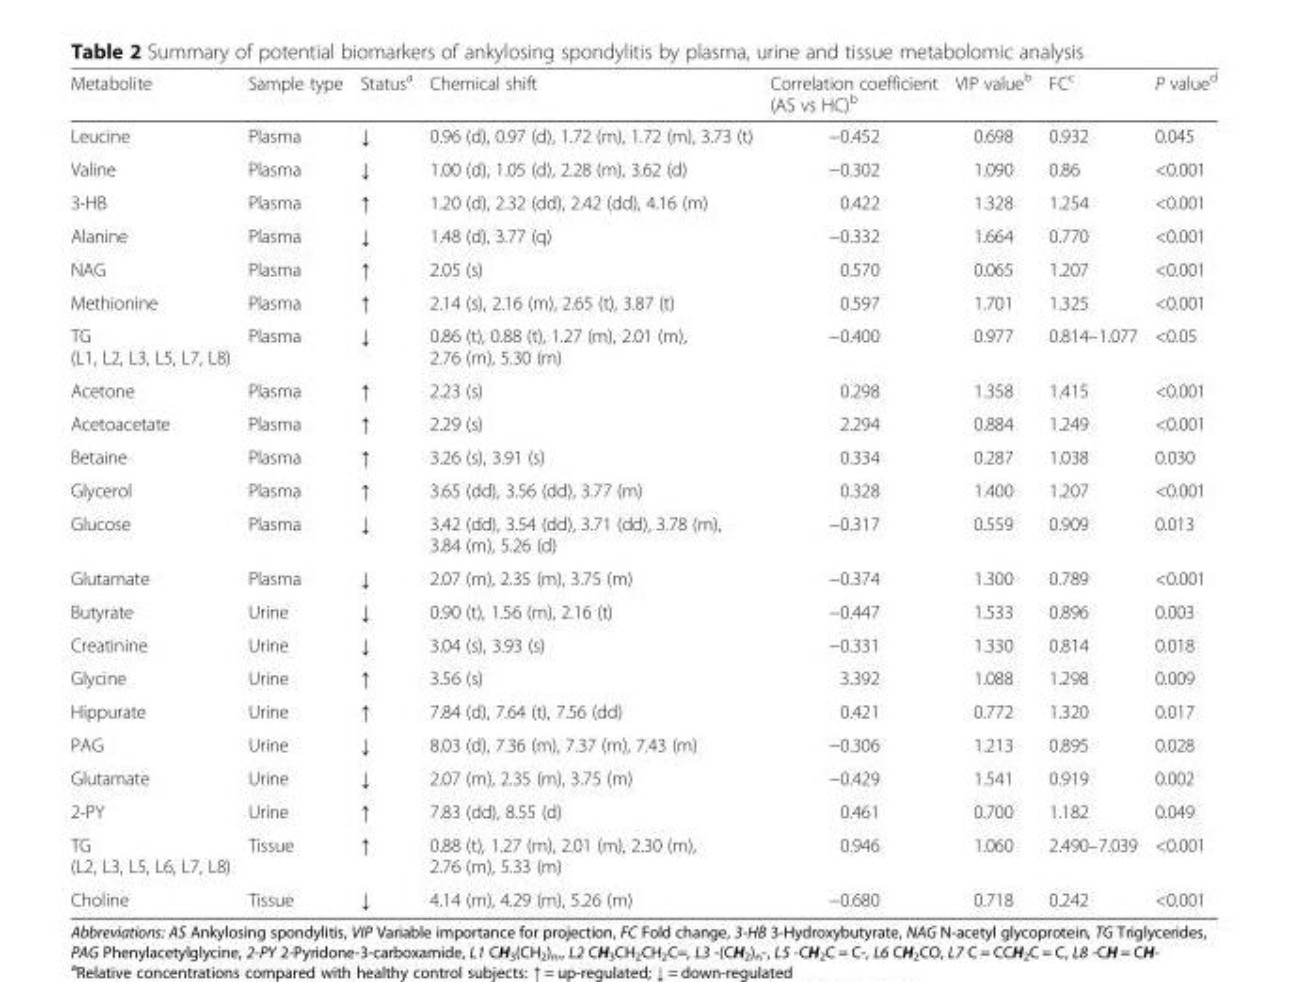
<table><thead><tr><td>Metabolite</td><td>Sample type</td><td>Status<sup>a</sup></td><td>Chemical shift</td><td>Correlation coefficient (AS vs HC)<sup>b</sup></td><td>VIP value<sup>b</sup></td><td>FC<sup>c</sup></td><td>P value<sup>d</sup></td></tr></thead><tbody><tr><td>Leucine</td><td>Plasma</td><td>↓</td><td>0.96 (d), 0.97 (d), 1.72 (m), 1.72 (m), 3.73 (t)</td><td>−0.452</td><td>0.698</td><td>0.932</td><td>0.045</td></tr><tr><td>Valine</td><td>Plasma</td><td>↓</td><td>1.00 (d), 1.05 (d), 2.28 (m), 3.62 (d)</td><td>−0.302</td><td>1.090</td><td>0.86</td><td>&lt;0.001</td></tr><tr><td>3-HB</td><td>Plasma</td><td>↑</td><td>1.20 (d), 2.32 (dd), 2.42 (dd), 4.16 (m)</td><td>0.422</td><td>1.328</td><td>1.254</td><td>&lt;0.001</td></tr><tr><td>Alanine</td><td>Plasma</td><td>↓</td><td>1.48 (d), 3.77 (q)</td><td>−0.332</td><td>1.664</td><td>0.770</td><td>&lt;0.001</td></tr><tr><td>NAG</td><td>Plasma</td><td>↑</td><td>2.05 (s)</td><td>0.570</td><td>0.065</td><td>1.207</td><td>&lt;0.001</td></tr><tr><td>Methionine</td><td>Plasma</td><td>↑</td><td>2.14 (s), 2.16 (m), 2.65 (t), 3.87 (t)</td><td>0.597</td><td>1.701</td><td>1.325</td><td>&lt;0.001</td></tr><tr><td>TG (L1, L2, L3, L5, L7, L8)</td><td>Plasma</td><td>↓</td><td>0.86 (t), 0.88 (t), 1.27 (m), 2.01 (m), 2.76 (m), 5.30 (m)</td><td>−0.400</td><td>0.977</td><td>0.814–1.077</td><td>&lt;0.05</td></tr><tr><td>Acetone</td><td>Plasma</td><td>↑</td><td>2.23 (s)</td><td>0.298</td><td>1.358</td><td>1.415</td><td>&lt;0.001</td></tr><tr><td>Acetoacetate</td><td>Plasma</td><td>↑</td><td>2.29 (s)</td><td>2.294</td><td>0.884</td><td>1.249</td><td>&lt;0.001</td></tr><tr><td>Betaine</td><td>Plasma</td><td>↑</td><td>3.26 (s), 3.91 (s)</td><td>0.334</td><td>0.287</td><td>1.038</td><td>0.030</td></tr><tr><td>Glycerol</td><td>Plasma</td><td>↑</td><td>3.65 (dd), 3.56 (dd), 3.77 (m)</td><td>0.328</td><td>1.400</td><td>1.207</td><td>&lt;0.001</td></tr><tr><td>Glucose</td><td>Plasma</td><td>↓</td><td>3.42 (dd), 3.54 (dd), 3.71 (dd), 3.78 (m), 3.84 (m), 5.26 (d)</td><td>−0.317</td><td>0.559</td><td>0.909</td><td>0.013</td></tr><tr><td>Glutamate</td><td>Plasma</td><td>↓</td><td>2.07 (m), 2.35 (m), 3.75 (m)</td><td>−0.374</td><td>1.300</td><td>0.789</td><td>&lt;0.001</td></tr><tr><td>Butyrate</td><td>Urine</td><td>↓</td><td>0.90 (t), 1.56 (m), 2.16 (t)</td><td>−0.447</td><td>1.533</td><td>0.896</td><td>0.003</td></tr><tr><td>Creatinine</td><td>Urine</td><td>↓</td><td>3.04 (s), 3.93 (s)</td><td>−0.331</td><td>1.330</td><td>0.814</td><td>0.018</td></tr><tr><td>Glycine</td><td>Urine</td><td>↑</td><td>3.56 (s)</td><td>3.392</td><td>1.088</td><td>1.298</td><td>0.009</td></tr><tr><td>Hippurate</td><td>Urine</td><td>↑</td><td>7.84 (d), 7.64 (t), 7.56 (dd)</td><td>0.421</td><td>0.772</td><td>1.320</td><td>0.017</td></tr><tr><td>PAG</td><td>Urine</td><td>↓</td><td>8.03 (d), 7.36 (m), 7.37 (m), 7.43 (m)</td><td>−0.306</td><td>1.213</td><td>0.895</td><td>0.028</td></tr><tr><td>Glutamate</td><td>Urine</td><td>↓</td><td>2.07 (m), 2.35 (m), 3.75 (m)</td><td>−0.429</td><td>1.541</td><td>0.919</td><td>0.002</td></tr><tr><td>2-PY</td><td>Urine</td><td>↑</td><td>7.83 (dd), 8.55 (d)</td><td>0.461</td><td>0.700</td><td>1.182</td><td>0.049</td></tr><tr><td>TG (L2, L3, L5, L6, L7, L8)</td><td>Tissue</td><td>↑</td><td>0.88 (t), 1.27 (m), 2.01 (m), 2.30 (m), 2.76 (m), 5.33 (m)</td><td>0.946</td><td>1.060</td><td>2.490–7.039</td><td>&lt;0.001</td></tr><tr><td>Choline</td><td>Tissue</td><td>↓</td><td>4.14 (m), 4.29 (m), 5.26 (m)</td><td>−0.680</td><td>0.718</td><td>0.242</td><td>&lt;0.001</td></tr></tbody></table>